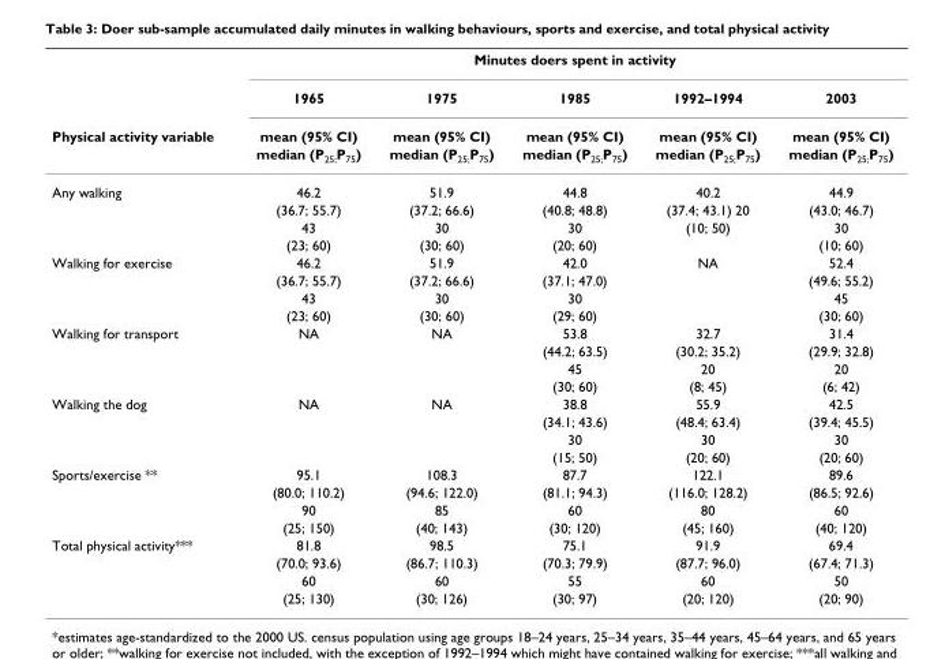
<table><thead><tr><td rowspan="4">Physical activity variable</td><td colspan="5">Minutes doers spent in activity</td></tr><tr><td rowspan="3">1965 mean (95% CI) median (P<sub>25;</sub>P<sub>75</sub>)</td><td rowspan="3">1975 mean (95% CI) median (P<sub>25;</sub>P<sub>75</sub>)</td><td rowspan="3">1985 mean (95% CI) median (P<sub>25;</sub>P<sub>75</sub>)</td><td rowspan="3">1992–1994 mean (95% CI) median (P<sub>25;</sub>P<sub>75</sub>)</td><td rowspan="3">2003 mean (95% CI) median (P<sub>25;</sub>P<sub>75</sub>)</td></tr><tr></tr><tr></tr></thead><tbody><tr><td rowspan="4">Any walking</td><td>46.2</td><td>51.9</td><td>44.8</td><td>40.2</td><td>44.9</td></tr><tr><td>(36.7; 55.7)</td><td>(37.2; 66.6)</td><td>(40.8; 48.8)</td><td>(37.4; 43.1) 20</td><td>(43.0; 46.7)</td></tr><tr><td>43</td><td>30</td><td>30</td><td>(10; 50)</td><td>30</td></tr><tr><td>(23; 60)</td><td>(30; 60)</td><td>(20; 60)</td><td></td><td>(10; 60)</td></tr><tr><td rowspan="4">Walking for exercise</td><td>46.2</td><td>51.9</td><td>42.0</td><td>NA</td><td>52.4</td></tr><tr><td>(36.7; 55.7)</td><td>(37.2; 66.6)</td><td>(37.1; 47.0)</td><td></td><td>(49.6; 55.2)</td></tr><tr><td>43</td><td>30</td><td>30</td><td></td><td>45</td></tr><tr><td>(23; 60)</td><td>(30; 60)</td><td>(29; 60)</td><td></td><td>(30; 60)</td></tr><tr><td rowspan="4">Walking for transport</td><td>NA</td><td>NA</td><td>53.8</td><td>32.7</td><td>31.4</td></tr><tr><td></td><td></td><td>(44.2; 63.5)</td><td>(30.2; 35.2)</td><td>(29.9; 32.8)</td></tr><tr><td></td><td></td><td>45</td><td>20</td><td>20</td></tr><tr><td></td><td></td><td>(30; 60)</td><td>(8; 45)</td><td>(6; 42)</td></tr><tr><td rowspan="4">Walking the dog</td><td>NA</td><td>NA</td><td>38.8</td><td>55.9</td><td>42.5</td></tr><tr><td></td><td></td><td>(34.1; 43.6)</td><td>(48.4; 63.4)</td><td>(39.4; 45.5)</td></tr><tr><td></td><td></td><td>30</td><td>30</td><td>30</td></tr><tr><td></td><td></td><td>(15; 50)</td><td>(20; 60)</td><td>(20; 60)</td></tr><tr><td rowspan="4">Sports/exercise **</td><td>95.1</td><td>108.3</td><td>87.7</td><td>122.1</td><td>89.6</td></tr><tr><td>(80.0; 110.2)</td><td>(94.6; 122.0)</td><td>(81.1; 94.3)</td><td>(116.0; 128.2)</td><td>(86.5; 92.6)</td></tr><tr><td>90</td><td>85</td><td>60</td><td>80</td><td>60</td></tr><tr><td>(25; 150)</td><td>(40; 143)</td><td>(30; 120)</td><td>(45; 160)</td><td>(40; 120)</td></tr><tr><td rowspan="4">Total physical activity***</td><td>81.8</td><td>98.5</td><td>75.1</td><td>91.9</td><td>69.4</td></tr><tr><td>(70.0; 93.6)</td><td>(86.7; 110.3)</td><td>(70.3; 79.9)</td><td>(87.7; 96.0)</td><td>(67.4; 71.3)</td></tr><tr><td>60</td><td>60</td><td>55</td><td>60</td><td>50</td></tr><tr><td>(25; 130)</td><td>(30; 126)</td><td>(30; 97)</td><td>(20; 120)</td><td>(20; 90)</td></tr></tbody></table>